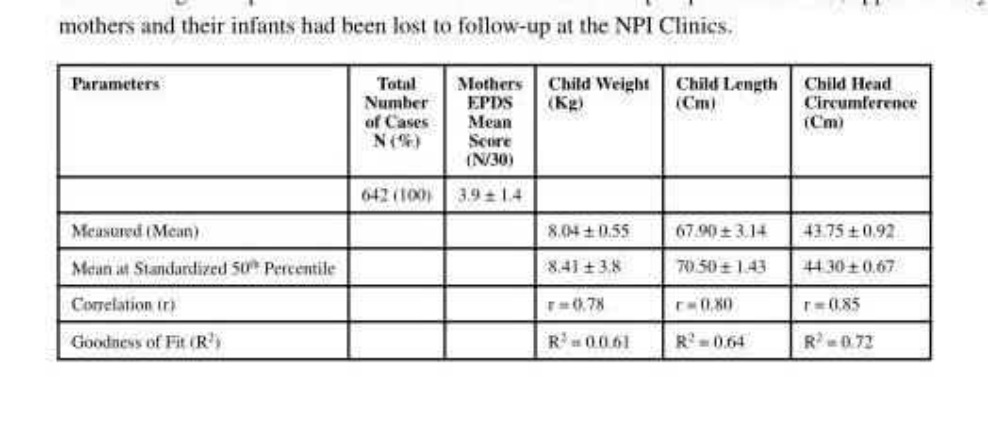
<table><thead><tr><td>Parameters</td><td>Total Number of Cases N (%)</td><td>Mothers EPDS Mean Score (N/30)</td><td>Child Weight (Kg)</td><td>Child Length (Cm)</td><td>Child Head Circumference (Cm)</td></tr></thead><tbody><tr><td></td><td>642 (100)</td><td>3.9 ± 1.4</td><td></td><td></td><td></td></tr><tr><td>Measured (Mean)</td><td></td><td></td><td>8.04 ± 0.55</td><td>67.90 ± 3.14</td><td>43.75 ± 0.92</td></tr><tr><td>Mean at Standardized 50<sup>th</sup> Percentile</td><td></td><td></td><td>8.41 ± 3.8</td><td>70.50 ± 1.43</td><td>44.30 ± 0.67</td></tr><tr><td>Correlation (r)</td><td></td><td></td><td>r = 0.78</td><td>r = 0.80</td><td>r = 0.85</td></tr><tr><td>Goodness of Fit (R<sup>2</sup>)</td><td></td><td></td><td>R<sup>2</sup> = 0.0.61</td><td>R<sup>2</sup> = 0.64</td><td>R<sup>2</sup> = 0.72</td></tr></tbody></table>